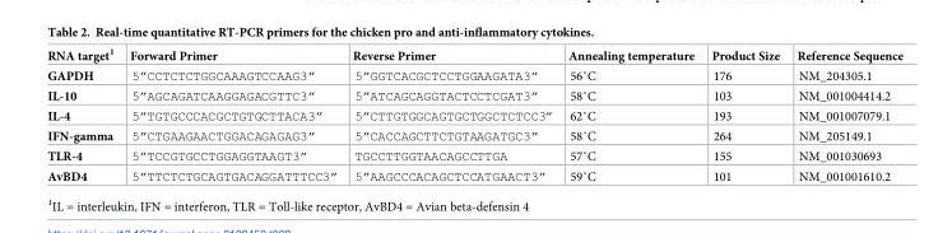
<table><thead><tr><td>RNA target<sup>1</sup></td><td>Forward Primer</td><td>Reverse Primer</td><td>Annealing temperature</td><td>Product Size</td><td>Reference Sequence</td></tr></thead><tbody><tr><td>GAPDH</td><td>5”CCTCTCTGGCAAAGTCCAAG3”</td><td>5”GGTCACGCTCCTGGAAGATA3”</td><td>56˚C</td><td>176</td><td>NM_204305.1</td></tr><tr><td>IL-10</td><td>5”AGCAGATCAAGGAGACGTTC3”</td><td>5”ATCAGCAGGTACTCCTCGAT3”</td><td>58˚C</td><td>103</td><td>NM_001004414.2</td></tr><tr><td>IL-4</td><td>5”TGTGCCCACGCTGTGCTTACA3”</td><td>5”CTTGTGGCAGTGCTGGCTCTCC3”</td><td>62˚C</td><td>193</td><td>NM_001007079.1</td></tr><tr><td>IFN-gamma</td><td>5”CTGAAGAACTGGACAGAGAG3”</td><td>5”CACCAGCTTCTGTAAGATGC3”</td><td>58˚C</td><td>264</td><td>NM_205149.1</td></tr><tr><td>TLR-4</td><td>5”TCCGTGCCTGGAGGTAAGT3”</td><td>TGCCTTGGTAACAGCCTTGA</td><td>57˚C</td><td>155</td><td>NM_001030693</td></tr><tr><td>AvBD4</td><td>5”TTCTCTGCAGTGACAGGATTTCC3”</td><td>5”AAGCCCACAGCTCCATGAACT3”</td><td>59˚C</td><td>101</td><td>NM_001001610.2</td></tr></tbody></table>